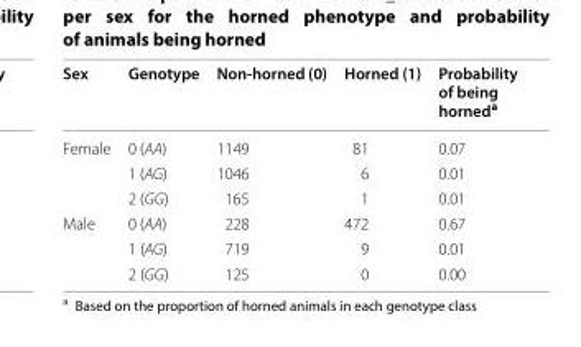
<table><thead><tr><td>Sex</td><td>Genotype</td><td>Non-horned (0)</td><td>Horned (1)</td><td>Probability of being horned<sup>a</sup></td></tr></thead><tbody><tr><td rowspan="3">Female</td><td>0 (AA)</td><td>1149</td><td>81</td><td>0.07</td></tr><tr><td>1 (AG)</td><td>1046</td><td>6</td><td>0.01</td></tr><tr><td>2 (GG)</td><td>165</td><td>1</td><td>0.01</td></tr><tr><td rowspan="3">Male</td><td>0 (AA)</td><td>228</td><td>472</td><td>0.67</td></tr><tr><td>1 (AG)</td><td>719</td><td>9</td><td>0.01</td></tr><tr><td>2 (GG)</td><td>125</td><td>0</td><td>0.00</td></tr></tbody></table>